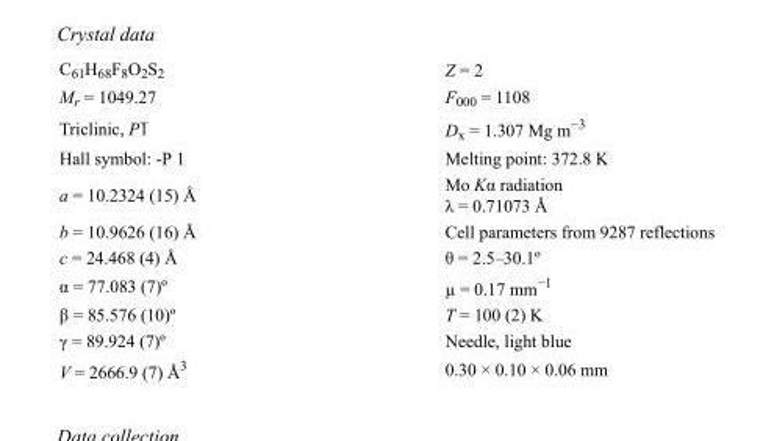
<table><tbody><tr><td>C<sub>61</sub>H<sub>68</sub>F<sub>8</sub>O<sub>2</sub>S<sub>2</sub></td><td>Z = 2</td></tr><tr><td>M<sub>r</sub> = 1049.27</td><td>F<sub>000</sub> = 1108</td></tr><tr><td>Triclinic, P1</td><td>D<sub>x</sub> = 1.307 Mg m<sup>−3</sup></td></tr><tr><td>Hall symbol: -P 1</td><td>Melting point: 372.8 K</td></tr><tr><td>a = 10.2324 (15) Å</td><td>Mo Kα radiation λ = 0.71073 Å</td></tr><tr><td>b = 10.9626 (16) Å</td><td>Cell parameters from 9287 reflections</td></tr><tr><td>c = 24.468 (4) Å</td><td>θ = 2.5–30.1º</td></tr><tr><td>α = 77.083 (7)º</td><td>µ = 0.17 mm<sup>−1</sup></td></tr><tr><td>β = 85.576 (10)º</td><td>T = 100 (2) K</td></tr><tr><td>γ = 89.924 (7)º</td><td>Needle, light blue</td></tr><tr><td>V = 2666.9 (7) Å<sup>3</sup></td><td>0.30 × 0.10 × 0.06 mm</td></tr></tbody></table>